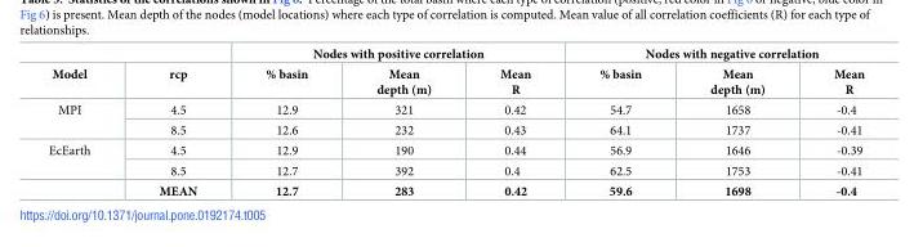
<table><thead><tr><td rowspan="2">Model</td><td rowspan="2">rcp</td><td colspan="3">Nodes with positive correlation</td><td colspan="3">Nodes with negative correlation</td></tr><tr><td>% basin</td><td>Mean depth (m)</td><td>Mean R</td><td>% basin</td><td>Mean depth (m)</td><td>Mean R</td></tr></thead><tbody><tr><td rowspan="2">MPI</td><td>4.5</td><td>12.9</td><td>321</td><td>0.42</td><td>54.7</td><td>1658</td><td>-0.4</td></tr><tr><td>8.5</td><td>12.6</td><td>232</td><td>0.43</td><td>64.1</td><td>1737</td><td>-0.41</td></tr><tr><td rowspan="3">EcEarth</td><td>4.5</td><td>12.9</td><td>190</td><td>0.44</td><td>56.9</td><td>1646</td><td>-0.39</td></tr><tr><td>8.5</td><td>12.7</td><td>392</td><td>0.4</td><td>62.5</td><td>1753</td><td>-0.41</td></tr><tr><td>MEAN</td><td>12.7</td><td>283</td><td>0.42</td><td>59.6</td><td>1698</td><td>-0.4</td></tr></tbody></table>